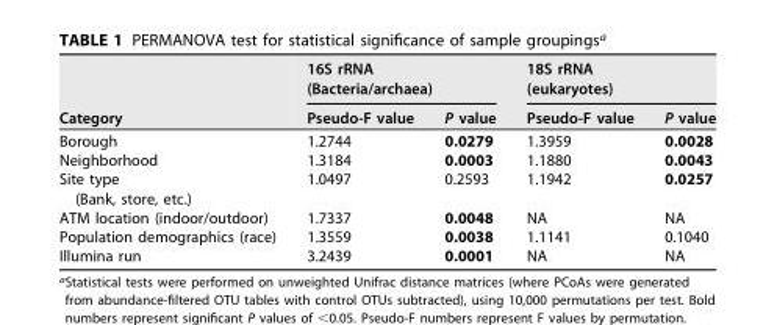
<table><thead><tr><td rowspan="2">Category</td><td colspan="2">16S rRNA (Bacteria/archaea)</td><td colspan="2">18S rRNA (eukaryotes)</td></tr><tr><td>Pseudo-F value</td><td>P value</td><td>Pseudo-F value</td><td>P value</td></tr></thead><tbody><tr><td>Borough</td><td>1.2744</td><td>0.0279</td><td>1.3959</td><td>0.0028</td></tr><tr><td>Neighborhood</td><td>1.3184</td><td>0.0003</td><td>1.1880</td><td>0.0043</td></tr><tr><td>Site type (Bank, store, etc.)</td><td>1.0497</td><td>0.2593</td><td>1.1942</td><td>0.0257</td></tr><tr><td>ATM location (indoor/outdoor)</td><td>1.7337</td><td>0.0048</td><td>NA</td><td>NA</td></tr><tr><td>Population demographics (race)</td><td>1.3559</td><td>0.0038</td><td>1.1141</td><td>0.1040</td></tr><tr><td>Illumina run</td><td>3.2439</td><td>0.0001</td><td>NA</td><td>NA</td></tr></tbody></table>